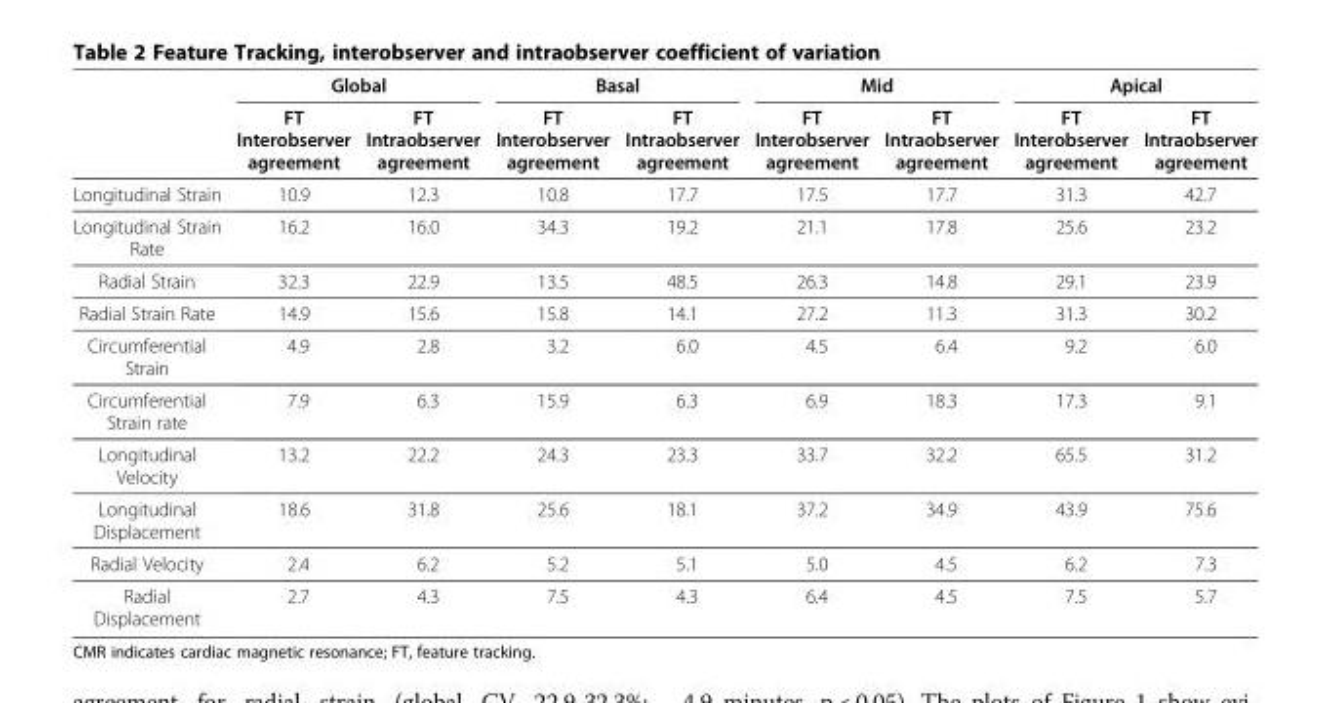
<table><thead><tr><td rowspan="2"></td><td colspan="2">Global</td><td colspan="2">Basal</td><td colspan="2">Mid</td><td colspan="2">Apical</td></tr><tr><td>FT Interobserver agreement</td><td>FT Intraobserver agreement</td><td>FT Interobserver agreement</td><td>FT Intraobserver agreement</td><td>FT Interobserver agreement</td><td>FT Intraobserver agreement</td><td>FT Interobserver agreement</td><td>FT Intraobserver agreement</td></tr></thead><tbody><tr><td>Longitudinal Strain</td><td>10.9</td><td>12.3</td><td>10.8</td><td>17.7</td><td>17.5</td><td>17.7</td><td>31.3</td><td>42.7</td></tr><tr><td>Longitudinal Strain Rate</td><td>16.2</td><td>16.0</td><td>34.3</td><td>19.2</td><td>21.1</td><td>17.8</td><td>25.6</td><td>23.2</td></tr><tr><td>Radial Strain</td><td>32.3</td><td>22.9</td><td>13.5</td><td>48.5</td><td>26.3</td><td>14.8</td><td>29.1</td><td>23.9</td></tr><tr><td>Radial Strain Rate</td><td>14.9</td><td>15.6</td><td>15.8</td><td>14.1</td><td>27.2</td><td>11.3</td><td>31.3</td><td>30.2</td></tr><tr><td>Circumferential Strain</td><td>4.9</td><td>2.8</td><td>3.2</td><td>6.0</td><td>4.5</td><td>6.4</td><td>9.2</td><td>6.0</td></tr><tr><td>Circumferential Strain rate</td><td>7.9</td><td>6.3</td><td>15.9</td><td>6.3</td><td>6.9</td><td>18.3</td><td>17.3</td><td>9.1</td></tr><tr><td>Longitudinal Velocity</td><td>13.2</td><td>22.2</td><td>24.3</td><td>23.3</td><td>33.7</td><td>32.2</td><td>65.5</td><td>31.2</td></tr><tr><td>Longitudinal Displacement</td><td>18.6</td><td>31.8</td><td>25.6</td><td>18.1</td><td>37.2</td><td>34.9</td><td>43.9</td><td>75.6</td></tr><tr><td>Radial Velocity</td><td>2.4</td><td>6.2</td><td>5.2</td><td>5.1</td><td>5.0</td><td>4.5</td><td>6.2</td><td>7.3</td></tr><tr><td>Radial Displacement</td><td>2.7</td><td>4.3</td><td>7.5</td><td>4.3</td><td>6.4</td><td>4.5</td><td>7.5</td><td>5.7</td></tr></tbody></table>